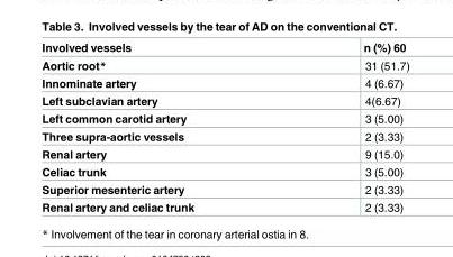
<table><thead><tr><td>Involved vessels</td><td>n (%) 60</td></tr></thead><tbody><tr><td>Aortic root*</td><td>31 (51.7)</td></tr><tr><td>Innominate artery</td><td>4 (6.67)</td></tr><tr><td>Left subclavian artery</td><td>4(6.67)</td></tr><tr><td>Left common carotid artery</td><td>3 (5.00)</td></tr><tr><td>Three supra-aortic vessels</td><td>2 (3.33)</td></tr><tr><td>Renal artery</td><td>9 (15.0)</td></tr><tr><td>Celiac trunk</td><td>3 (5.00)</td></tr><tr><td>Superior mesenteric artery</td><td>2 (3.33)</td></tr><tr><td>Renal artery and celiac trunk</td><td>2 (3.33)</td></tr></tbody></table>